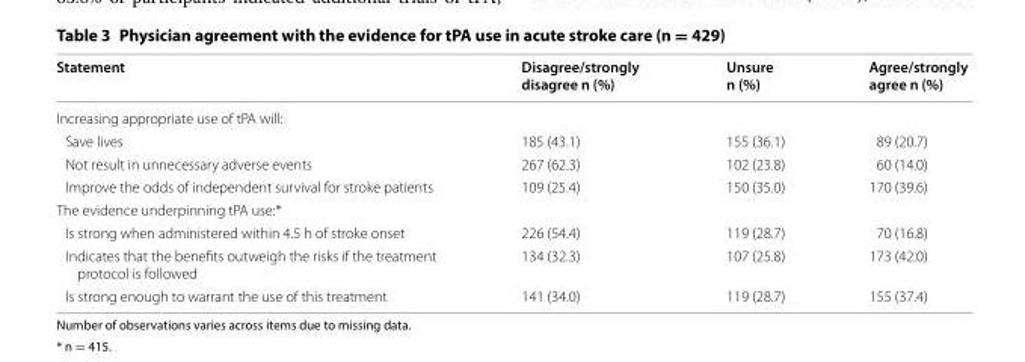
<table><thead><tr><td>Statement</td><td>Disagree/strongly disagree n (%)</td><td>Unsure n (%)</td><td>Agree/strongly agree n (%)</td></tr></thead><tbody><tr><td colspan="4">Increasing appropriate use of tPA will:</td></tr><tr><td>Save lives</td><td>185 (43.1)</td><td>155 (36.1)</td><td>89 (20.7)</td></tr><tr><td>Not result in unnecessary adverse events</td><td>267 (62.3)</td><td>102 (23.8)</td><td>60 (14.0)</td></tr><tr><td>Improve the odds of independent survival for stroke patients</td><td>109 (25.4)</td><td>150 (35.0)</td><td>170 (39.6)</td></tr><tr><td colspan="4">The evidence underpinning tPA use:*</td></tr><tr><td>Is strong when administered within 4.5 h of stroke onset</td><td>226 (54.4)</td><td>119 (28.7)</td><td>70 (16.8)</td></tr><tr><td>Indicates that the benefits outweigh the risks if the treatment protocol is followed</td><td>134 (32.3)</td><td>107 (25.8)</td><td>173 (42.0)</td></tr><tr><td>Is strong enough to warrant the use of this treatment</td><td>141 (34.0)</td><td>119 (28.7)</td><td>155 (37.4)</td></tr></tbody></table>